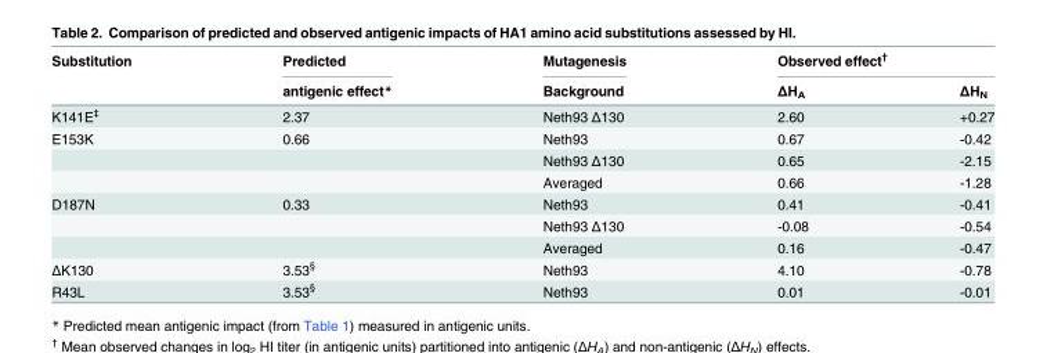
<table><thead><tr><td rowspan="2">Substitution</td><td rowspan="2">Predicted antigenic effect*</td><td rowspan="2">Mutagenesis Background</td><td colspan="2">Observed effect<sup>†</sup></td></tr><tr><td>ΔH<sub>A</sub></td><td>ΔH<sub>N</sub></td></tr></thead><tbody><tr><td>K141E<sup>‡</sup></td><td>2.37</td><td>Neth93 Δ130</td><td>2.60</td><td>+0.27</td></tr><tr><td rowspan="3">E153K</td><td>0.66</td><td>Neth93</td><td>0.67</td><td>-0.42</td></tr><tr><td></td><td>Neth93 Δ130</td><td>0.65</td><td>-2.15</td></tr><tr><td></td><td>Averaged</td><td>0.66</td><td>-1.28</td></tr><tr><td rowspan="3">D187N</td><td>0.33</td><td>Neth93</td><td>0.41</td><td>-0.41</td></tr><tr><td></td><td>Neth93 Δ130</td><td>-0.08</td><td>-0.54</td></tr><tr><td></td><td>Averaged</td><td>0.16</td><td>-0.47</td></tr><tr><td>ΔK130</td><td>3.53<sup>§</sup></td><td>Neth93</td><td>4.10</td><td>-0.78</td></tr><tr><td>R43L</td><td>3.53<sup>§</sup></td><td>Neth93</td><td>0.01</td><td>-0.01</td></tr></tbody></table>